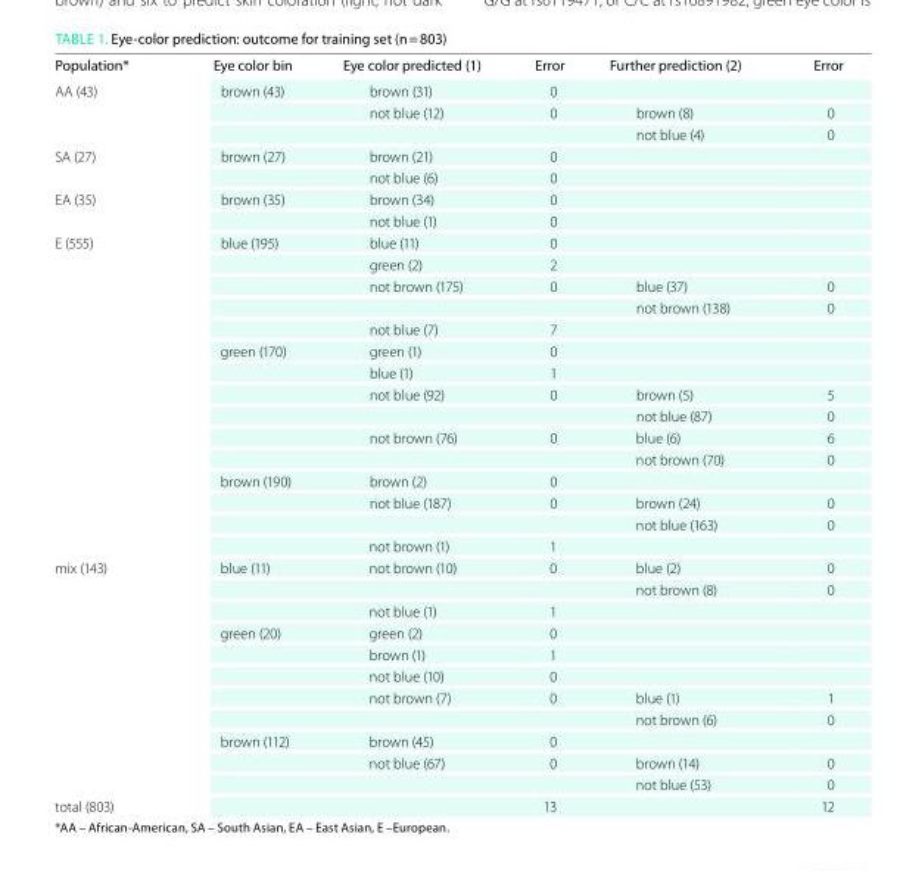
<table><thead><tr><td>Population*</td><td>Eye color bin</td><td>Eye color predicted (1)</td><td>Error</td><td>Further prediction (2)</td><td>Error</td></tr></thead><tbody><tr><td rowspan="3">AA (43)</td><td>brown (43)</td><td>brown (31)</td><td>0</td><td></td><td></td></tr><tr><td></td><td>not blue (12)</td><td>0</td><td>brown (8)</td><td>0</td></tr><tr><td></td><td></td><td></td><td>not blue (4)</td><td>0</td></tr><tr><td rowspan="2">SA (27)</td><td>brown (27)</td><td>brown (21)</td><td>0</td><td></td><td></td></tr><tr><td></td><td>not blue (6)</td><td>0</td><td></td><td></td></tr><tr><td rowspan="2">EA (35)</td><td>brown (35)</td><td>brown (34)</td><td>0</td><td></td><td></td></tr><tr><td></td><td>not blue (1)</td><td>0</td><td></td><td></td></tr><tr><td rowspan="15">E (555)</td><td>blue (195)</td><td>blue (11)</td><td>0</td><td></td><td></td></tr><tr><td></td><td>green (2)</td><td>2</td><td></td><td></td></tr><tr><td></td><td>not brown (175)</td><td>0</td><td>blue (37)</td><td>0</td></tr><tr><td></td><td></td><td></td><td>not brown (138)</td><td>0</td></tr><tr><td></td><td>not blue (7)</td><td>7</td><td></td><td></td></tr><tr><td>green (170)</td><td>green (1)</td><td>0</td><td></td><td></td></tr><tr><td></td><td>blue (1)</td><td>1</td><td></td><td></td></tr><tr><td></td><td>not blue (92)</td><td>0</td><td>brown (5)</td><td>5</td></tr><tr><td></td><td></td><td></td><td>not blue (87)</td><td>0</td></tr><tr><td></td><td>not brown (76)</td><td>0</td><td>blue (6)</td><td>6</td></tr><tr><td></td><td></td><td></td><td>not brown (70)</td><td>0</td></tr><tr><td>brown (190)</td><td>brown (2)</td><td>0</td><td></td><td></td></tr><tr><td></td><td>not blue (187)</td><td>0</td><td>brown (24)</td><td>0</td></tr><tr><td></td><td></td><td></td><td>not blue (163)</td><td>0</td></tr><tr><td></td><td>not brown (1)</td><td>1</td><td></td><td></td></tr><tr><td rowspan="11">mix (143)</td><td>blue (11)</td><td>not brown (10)</td><td>0</td><td>blue (2)</td><td>0</td></tr><tr><td></td><td></td><td></td><td>not brown (8)</td><td>0</td></tr><tr><td></td><td>not blue (1)</td><td>1</td><td></td><td></td></tr><tr><td>green (20)</td><td>green (2)</td><td>0</td><td></td><td></td></tr><tr><td></td><td>brown (1)</td><td>1</td><td></td><td></td></tr><tr><td></td><td>not blue (10)</td><td>0</td><td></td><td></td></tr><tr><td></td><td>not brown (7)</td><td>0</td><td>blue (1)</td><td>1</td></tr><tr><td></td><td></td><td></td><td>not brown (6)</td><td>0</td></tr><tr><td>brown (112)</td><td>brown (45)</td><td>0</td><td></td><td></td></tr><tr><td></td><td>not blue (67)</td><td>0</td><td>brown (14)</td><td>0</td></tr><tr><td></td><td></td><td></td><td>not blue (53)</td><td>0</td></tr><tr><td>total (803)</td><td></td><td></td><td>13</td><td></td><td>12</td></tr></tbody></table>